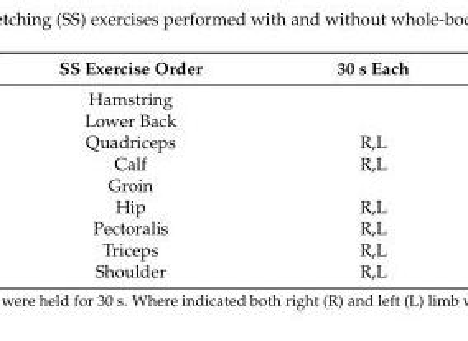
<table><thead><tr><td>SS Exercise Order</td><td>30 s Each</td></tr></thead><tbody><tr><td colspan="2">Hamstring</td></tr><tr><td colspan="2">Lower Back</td></tr><tr><td>Quadriceps</td><td>R,L</td></tr><tr><td>Calf</td><td>R,L</td></tr><tr><td colspan="2">Groin</td></tr><tr><td>Hip</td><td>R,L</td></tr><tr><td>Pectoralis</td><td>R,L</td></tr><tr><td>Triceps</td><td>R,L</td></tr><tr><td>Shoulder</td><td>R,L</td></tr></tbody></table>